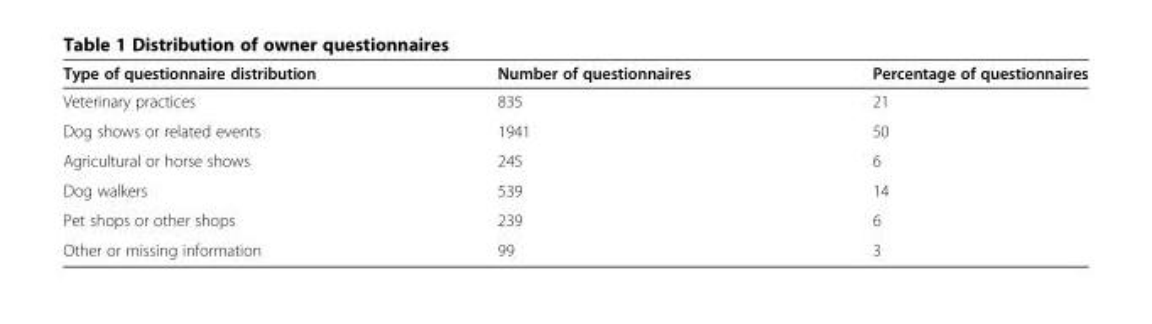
<table><thead><tr><td>Type of questionnaire distribution</td><td>Number of questionnaires</td><td>Percentage of questionnaires</td></tr></thead><tbody><tr><td>Veterinary practices</td><td>835</td><td>21</td></tr><tr><td>Dog shows or related events</td><td>1941</td><td>50</td></tr><tr><td>Agricultural or horse shows</td><td>245</td><td>6</td></tr><tr><td>Dog walkers</td><td>539</td><td>14</td></tr><tr><td>Pet shops or other shops</td><td>239</td><td>6</td></tr><tr><td>Other or missing information</td><td>99</td><td>3</td></tr></tbody></table>